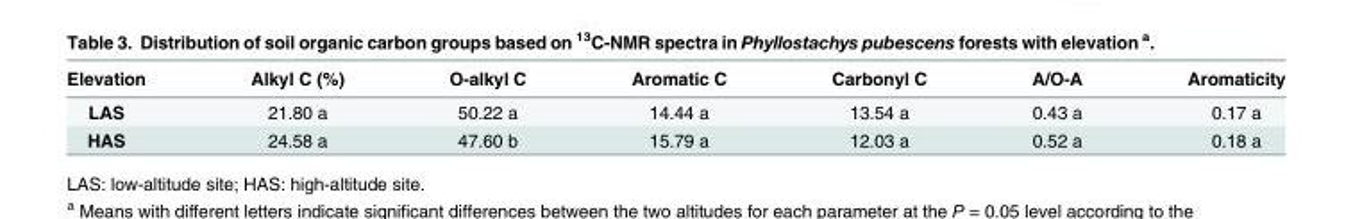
<table><thead><tr><td>Elevation</td><td>Alkyl C (%)</td><td>O-alkyl C</td><td>Aromatic C</td><td>Carbonyl C</td><td>A/O-A</td><td>Aromaticity</td></tr></thead><tbody><tr><td>LAS</td><td>21.80 a</td><td>50.22 a</td><td>14.44 a</td><td>13.54 a</td><td>0.43 a</td><td>0.17 a</td></tr><tr><td>HAS</td><td>24.58 a</td><td>47.60 b</td><td>15.79 a</td><td>12.03 a</td><td>0.52 a</td><td>0.18 a</td></tr></tbody></table>